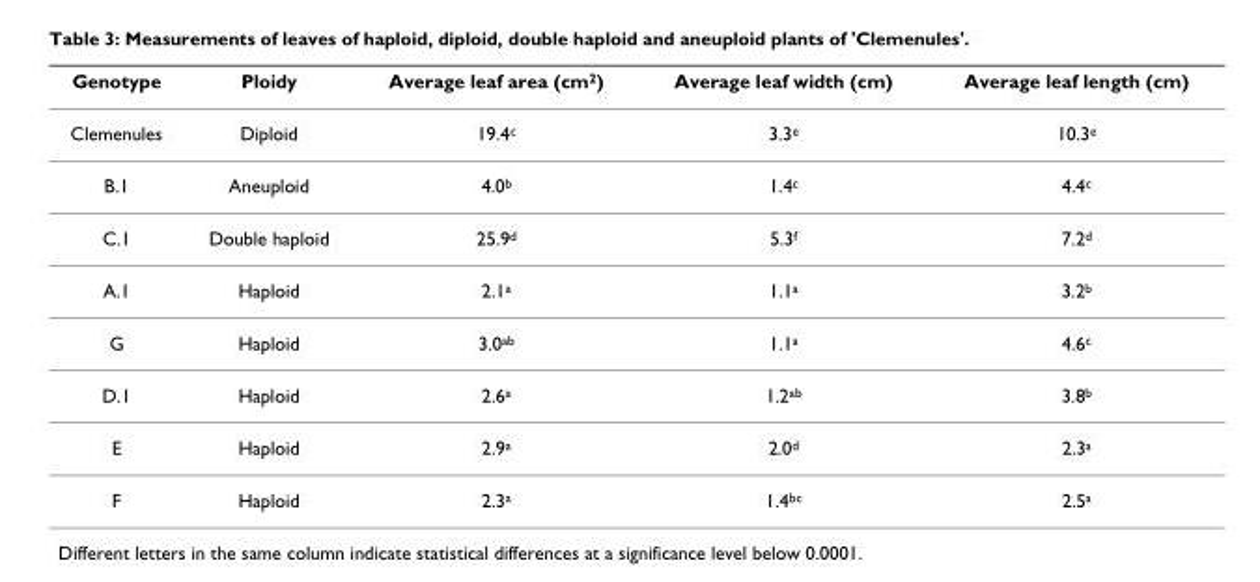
<table><thead><tr><td>Genotype</td><td>Ploidy</td><td>Average leaf area (cm<sup>2</sup>)</td><td>Average leaf width (cm)</td><td>Average leaf length (cm)</td></tr></thead><tbody><tr><td>Clemenules</td><td>Diploid</td><td>19.4<sup>c</sup></td><td>3.3<sup>e</sup></td><td>10.3<sup>e</sup></td></tr><tr><td>B.1</td><td>Aneuploid</td><td>4.0<sup>b</sup></td><td>1.4<sup>c</sup></td><td>4.4<sup>c</sup></td></tr><tr><td>C.1</td><td>Double haploid</td><td>25.9<sup>d</sup></td><td>5.3<sup>f</sup></td><td>7.2<sup>d</sup></td></tr><tr><td>A.1</td><td>Haploid</td><td>2.1<sup>a</sup></td><td>1.1<sup>a</sup></td><td>3.2<sup>b</sup></td></tr><tr><td>G</td><td>Haploid</td><td>3.0<sup>ab</sup></td><td>1.1<sup>a</sup></td><td>4.6<sup>c</sup></td></tr><tr><td>D.1</td><td>Haploid</td><td>2.6<sup>a</sup></td><td>1.2<sup>ab</sup></td><td>3.8<sup>b</sup></td></tr><tr><td>E</td><td>Haploid</td><td>2.9<sup>a</sup></td><td>2.0<sup>d</sup></td><td>2.3<sup>a</sup></td></tr><tr><td>F</td><td>Haploid</td><td>2.3<sup>a</sup></td><td>1.4<sup>bc</sup></td><td>2.5<sup>a</sup></td></tr></tbody></table>